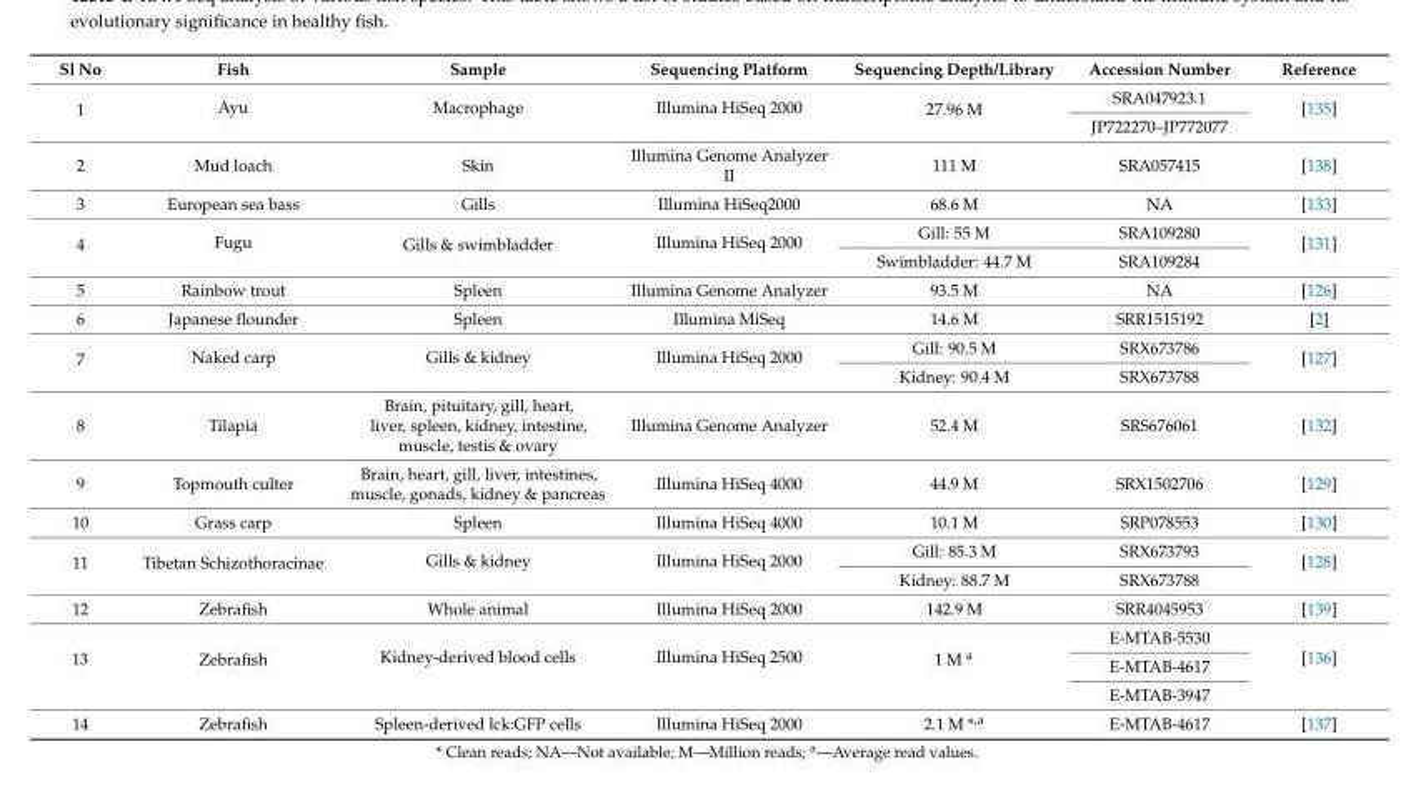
<table><thead><tr><td>Sl No</td><td>Fish</td><td>Sample</td><td>Sequencing Platform</td><td>Sequencing Depth/Library</td><td>Accession Number</td><td>Reference</td></tr></thead><tbody><tr><td rowspan="2">1</td><td rowspan="2">Ayu</td><td rowspan="2">Macrophage</td><td rowspan="2">Illumina HiSeq 2000</td><td rowspan="2">27.96 M</td><td>SRA047923.1</td><td rowspan="2">[135]</td></tr><tr><td>JP722270–JP772077</td></tr><tr><td>2</td><td>Mud loach</td><td>Skin</td><td>Illumina Genome Analyzer II</td><td>111 M</td><td>SRA057415</td><td>[138]</td></tr><tr><td>3</td><td>European sea bass</td><td>Gills</td><td>Illumina HiSeq2000</td><td>68.6 M</td><td>NA</td><td>[133]</td></tr><tr><td rowspan="2">4</td><td rowspan="2">Fugu</td><td rowspan="2">Gills &amp; swimbladder</td><td rowspan="2">Illumina HiSeq 2000</td><td>Gill: 55 M</td><td>SRA109280</td><td rowspan="2">[131]</td></tr><tr><td>Swimbladder: 44.7 M</td><td>SRA109284</td></tr><tr><td>5</td><td>Rainbow trout</td><td>Spleen</td><td>Illumina Genome Analyzer</td><td>93.5 M</td><td>NA</td><td>[126]</td></tr><tr><td>6</td><td>Japanese flounder</td><td>Spleen</td><td>Illumina MiSeq</td><td>14.6 M</td><td>SRR1515192</td><td>[2]</td></tr><tr><td rowspan="2">7</td><td rowspan="2">Naked carp</td><td rowspan="2">Gills &amp; kidney</td><td rowspan="2">Illumina HiSeq 2000</td><td>Gill: 90.5 M</td><td>SRX673786</td><td rowspan="2">[127]</td></tr><tr><td>Kidney: 90.4 M</td><td>SRX673788</td></tr><tr><td>8</td><td>Tilapia</td><td>Brain, pituitary, gill, heart, liver, spleen, kidney, intestine, muscle, testis &amp; ovary</td><td>Illumina Genome Analyzer</td><td>52.4 M</td><td>SRS676061</td><td>[132]</td></tr><tr><td>9</td><td>Topmouth culter</td><td>Brain, heart, gill, liver, intestines, muscle, gonads, kidney &amp; pancreas</td><td>Illumina HiSeq 4000</td><td>44.9 M</td><td>SRX1502706</td><td>[129]</td></tr><tr><td>10</td><td>Grass carp</td><td>Spleen</td><td>Illumina HiSeq 4000</td><td>10.1 M</td><td>SRP078553</td><td>[130]</td></tr><tr><td rowspan="2">11</td><td rowspan="2">Tibetan Schizothoracinae</td><td rowspan="2">Gills &amp; kidney</td><td rowspan="2">Illumina HiSeq 2000</td><td>Gill: 85.3 M</td><td>SRX673793</td><td rowspan="2">[128]</td></tr><tr><td>Kidney: 88.7 M</td><td>SRX673788</td></tr><tr><td>12</td><td>Zebrafish</td><td>Whole animal</td><td>Illumina HiSeq 2000</td><td>142.9 M</td><td>SRR4045953</td><td>[139]</td></tr><tr><td rowspan="3">13</td><td rowspan="3">Zebrafish</td><td rowspan="3">Kidney-derived blood cells</td><td rowspan="3">Illumina HiSeq 2500</td><td rowspan="3">1 M <sup>a</sup></td><td>E-MTAB-5530</td><td rowspan="3">[136]</td></tr><tr><td>E-MTAB-4617</td></tr><tr><td>E-MTAB-3947</td></tr><tr><td>14</td><td>Zebrafish</td><td>Spleen-derived lck:GFP cells</td><td>Illumina HiSeq 2000</td><td>2.1 M *<sup>,a</sup></td><td>E-MTAB-4617</td><td>[137]</td></tr></tbody></table>